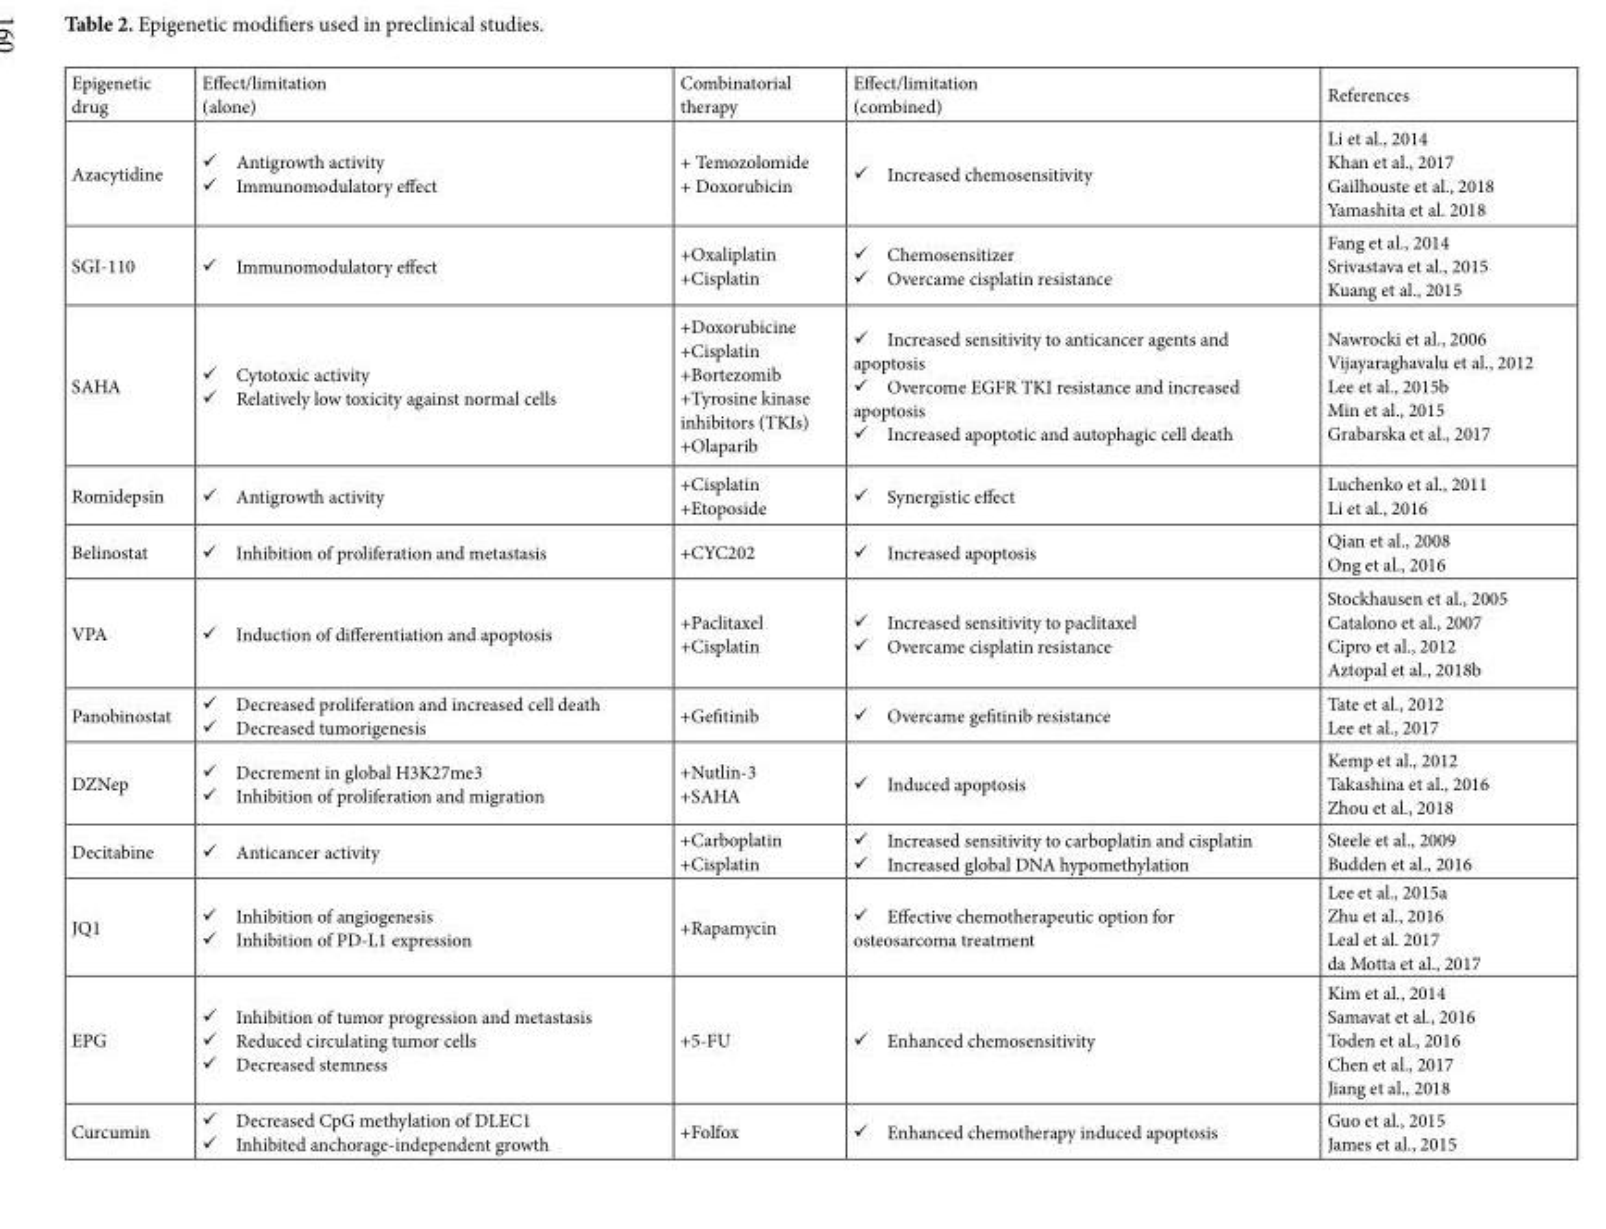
<table><thead><tr><td>Epigenetic drug</td><td>Effect/limitation (alone)</td><td>Combinatorial therapy</td><td>Effect/limitation (combined)</td><td>References</td></tr></thead><tbody><tr><td>Azacytidine</td><td> Antigrowth activity  Immunomodulatory effect</td><td>+ Temozolomide + Doxorubicin</td><td> Increased chemosensitivity</td><td>Li et al., 2014 Khan et al., 2017 Gailhouste et al., 2018 Yamashita et al. 2018</td></tr><tr><td>SGI-110</td><td> Immunomodulatory effect</td><td>+Oxaliplatin +Cisplatin</td><td> Chemosensitizer  Overcame cisplatin resistance</td><td>Fang et al., 2014 Srivastava et al., 2015 Kuang et al., 2015</td></tr><tr><td>SAHA</td><td> Cytotoxic activity  Relatively low toxicity against normal cells</td><td>+Doxorubicine +Cisplatin +Bortezomib +Tyrosine kinase inhibitors (TKIs) +Olaparib</td><td> Increased sensitivity to anticancer agents and apoptosis  Overcome EGFR TKI resistance and increased apoptosis  Increased apoptotic and autophagic cell death</td><td>Nawrocki et al., 2006 Vijayaraghavalu et al., 2012 Lee et al., 2015b Min et al., 2015 Grabarska et al., 2017</td></tr><tr><td>Romidepsin</td><td> Antigrowth activity</td><td>+Cisplatin +Etoposide</td><td> Synergistic effect</td><td>Luchenko et al., 2011 Li et al., 2016</td></tr><tr><td>Belinostat</td><td> Inhibition of proliferation and metastasis</td><td>+CYC202</td><td> Increased apoptosis</td><td>Qian et al., 2008 Ong et al., 2016</td></tr><tr><td>VPA</td><td> Induction of differentiation and apoptosis</td><td>+Paclitaxel +Cisplatin</td><td> Increased sensitivity to paclitaxel  Overcame cisplatin resistance</td><td>Stockhausen et al., 2005 Catalono et al., 2007 Cipro et al., 2012 Aztopal et al., 2018b</td></tr><tr><td>Panobinostat</td><td> Decreased proliferation and increased cell death  Decreased tumorigenesis</td><td>+Gefitinib</td><td> Overcame gefitinib resistance</td><td>Tate et al., 2012 Lee et al., 2017</td></tr><tr><td>DZNep</td><td> Decrement in global H3K27me3  Inhibition of proliferation and migration</td><td>+Nutlin-3 +SAHA</td><td> Induced apoptosis</td><td>Kemp et al., 2012 Takashina et al., 2016 Zhou et al., 2018</td></tr><tr><td>Decitabine</td><td> Anticancer activity</td><td>+Carboplatin +Cisplatin</td><td> Increased sensitivity to carboplatin and cisplatin  Increased global DNA hypomethylation</td><td>Steele et al., 2009 Budden et al., 2016</td></tr><tr><td>JQ1</td><td> Inhibition of angiogenesis  Inhibition of PD-L1 expression</td><td>+Rapamycin</td><td> Effective chemotherapeutic option for osteosarcoma treatment</td><td>Lee et al., 2015a Zhu et al., 2016 Leal et al. 2017 da Motta et al., 2017</td></tr><tr><td>EPG</td><td> Inhibition of tumor progression and metastasis  Reduced circulating tumor cells  Decreased stemness</td><td>+5-FU</td><td> Enhanced chemosensitivity</td><td>Kim et al., 2014 Samavat et al., 2016 Toden et al., 2016 Chen et al., 2017 Jiang et al., 2018</td></tr><tr><td>Curcumin</td><td> Decreased CpG methylation of DLEC1  Inhibited anchorage-independent growth</td><td>+Folfox</td><td> Enhanced chemotherapy induced apoptosis</td><td>Guo et al., 2015 James et al., 2015</td></tr></tbody></table>